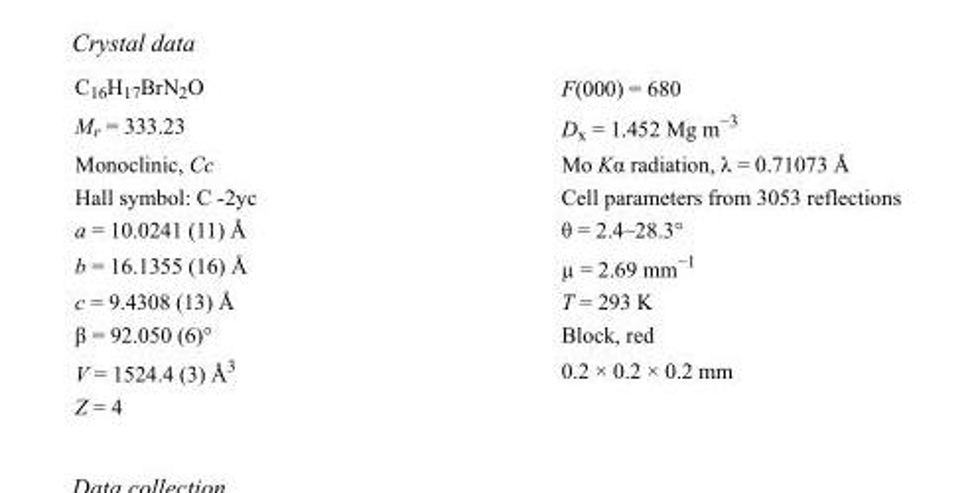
<table><tbody><tr><td>C<sub>16</sub>H<sub>17</sub>BrN<sub>2</sub>O</td><td>F(000) = 680</td></tr><tr><td>M<sub>r</sub> = 333.23</td><td>D<sub>x</sub> = 1.452 Mg m<sup>−3</sup></td></tr><tr><td>Monoclinic, Cc</td><td>Mo Kα radiation, λ = 0.71073 Å</td></tr><tr><td>Hall symbol: C -2yc</td><td>Cell parameters from 3053 reflections</td></tr><tr><td>a = 10.0241 (11) Å</td><td>θ = 2.4–28.3°</td></tr><tr><td>b = 16.1355 (16) Å</td><td>µ = 2.69 mm<sup>−1</sup></td></tr><tr><td>c = 9.4308 (13) Å</td><td>T = 293 K</td></tr><tr><td>β = 92.050 (6)°</td><td>Block, red</td></tr><tr><td>V = 1524.4 (3) Å<sup>3</sup></td><td>0.2 × 0.2 × 0.2 mm</td></tr><tr><td>Z = 4</td><td></td></tr></tbody></table>